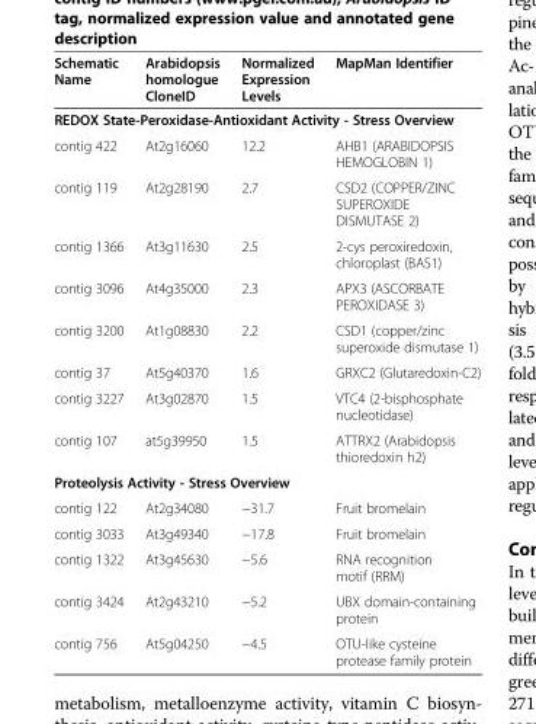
<table><thead><tr><td>Schematic Name</td><td>Arabidopsis homologue CloneID</td><td>Normalized Expression Levels</td><td>MapMan Identifier</td></tr></thead><tbody><tr><td colspan="4">REDOX State-Peroxidase-Antioxidant Activity - Stress Overview</td></tr><tr><td>contig 422</td><td>At2g16060</td><td>12.2</td><td>AHB1 (ARABIDOPSIS HEMOGLOBIN 1)</td></tr><tr><td>contig 119</td><td>At2g28190</td><td>2.7</td><td>CSD2 (COPPER/ZINC SUPEROXIDE DISMUTASE 2)</td></tr><tr><td>contig 1366</td><td>At3g11630</td><td>2.5</td><td>2-cys peroxiredoxin, chloroplast (BAS1)</td></tr><tr><td>contig 3096</td><td>At4g35000</td><td>2.3</td><td>APX3 (ASCORBATE PEROXIDASE 3)</td></tr><tr><td>contig 3200</td><td>At1g08830</td><td>2.2</td><td>CSD1 (copper/zinc superoxide dismutase 1)</td></tr><tr><td>contig 37</td><td>At5g40370</td><td>1.6</td><td>GRXC2 (Glutaredoxin-C2)</td></tr><tr><td>contig 3227</td><td>At3g02870</td><td>1.5</td><td>VTC4 (2-bisphosphate nucleotidase)</td></tr><tr><td>contig 107</td><td>at5g39950</td><td>1.5</td><td>ATTRX2 (Arabidopsis thioredoxin h2)</td></tr><tr><td colspan="4">Proteolysis Activity - Stress Overview</td></tr><tr><td>contig 122</td><td>At2g34080</td><td>−31.7</td><td>Fruit bromelain</td></tr><tr><td>contig 3033</td><td>At3g49340</td><td>−17.8</td><td>Fruit bromelain</td></tr><tr><td>contig 1322</td><td>At3g45630</td><td>−5.6</td><td>RNA recognition motif (RRM)</td></tr><tr><td>contig 3424</td><td>At2g43210</td><td>−5.2</td><td>UBX domain-containing protein</td></tr><tr><td>contig 756</td><td>At5g04250</td><td>−4.5</td><td>OTU-like cysteine protease family protein</td></tr></tbody></table>